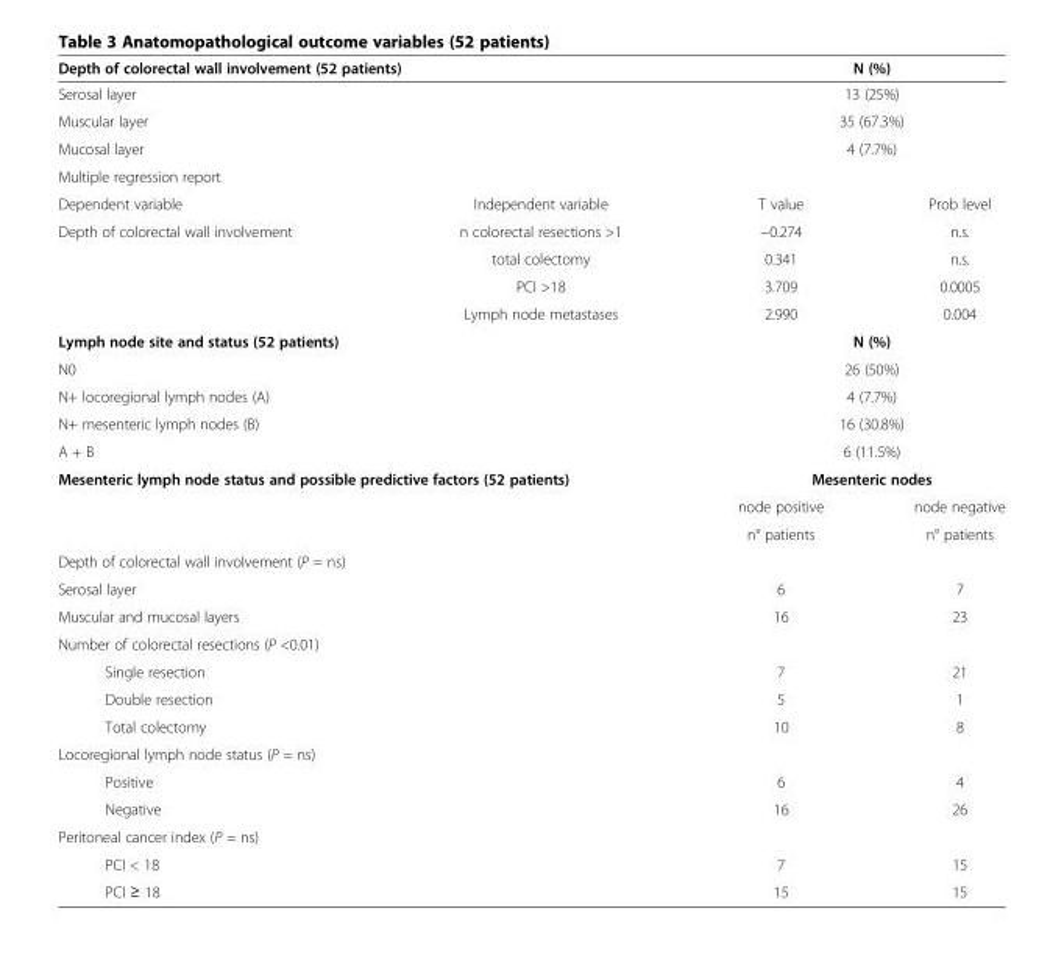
<table><thead><tr><td colspan="2">Depth of colorectal wall involvement (52 patients)</td><td colspan="2">N (%)</td></tr></thead><tbody><tr><td colspan="2">Serosal layer</td><td>13 (25%)</td><td></td></tr><tr><td colspan="2">Muscular layer</td><td>35 (67.3%)</td><td></td></tr><tr><td colspan="2">Mucosal layer</td><td>4 (7.7%)</td><td></td></tr><tr><td colspan="4">Multiple regression report</td></tr><tr><td>Dependent variable</td><td>Independent variable</td><td>T value</td><td>Prob level</td></tr><tr><td rowspan="4">Depth of colorectal wall involvement</td><td>n colorectal resections &gt;1</td><td>−0.274</td><td>n.s.</td></tr><tr><td>total colectomy</td><td>0.341</td><td>n.s.</td></tr><tr><td>PCI &gt;18</td><td>3.709</td><td>0.0005</td></tr><tr><td>Lymph node metastases</td><td>2.990</td><td>0.004</td></tr><tr><td colspan="2">Lymph node site and status (52 patients)</td><td colspan="2">N (%)</td></tr><tr><td colspan="2">N0</td><td colspan="2">26 (50%)</td></tr><tr><td colspan="2">N+ locoregional lymph nodes (A)</td><td colspan="2">4 (7.7%)</td></tr><tr><td colspan="2">N+ mesenteric lymph nodes (B)</td><td colspan="2">16 (30.8%)</td></tr><tr><td colspan="2">A + B</td><td colspan="2">6 (11.5%)</td></tr><tr><td colspan="2">Mesenteric lymph node status and possible predictive factors (52 patients)</td><td colspan="2">Mesenteric nodes</td></tr><tr><td></td><td></td><td>node positive</td><td>node negative</td></tr><tr><td></td><td></td><td>n° patients</td><td>n° patients</td></tr><tr><td colspan="4">Depth of colorectal wall involvement (P = ns)</td></tr><tr><td colspan="2">Serosal layer</td><td>6</td><td>7</td></tr><tr><td colspan="2">Muscular and mucosal layers</td><td>16</td><td>23</td></tr><tr><td colspan="4">Number of colorectal resections (P &lt;0.01)</td></tr><tr><td colspan="2">Single resection</td><td>7</td><td>21</td></tr><tr><td colspan="2">Double resection</td><td>5</td><td>1</td></tr><tr><td colspan="2">Total colectomy</td><td>10</td><td>8</td></tr><tr><td colspan="4">Locoregional lymph node status (P = ns)</td></tr><tr><td colspan="2">Positive</td><td>6</td><td>4</td></tr><tr><td colspan="2">Negative</td><td>16</td><td>26</td></tr><tr><td colspan="4">Peritoneal cancer index (P = ns)</td></tr><tr><td colspan="2">PCI &lt; 18</td><td>7</td><td>15</td></tr><tr><td colspan="2">PCI ≥ 18</td><td>15</td><td>15</td></tr></tbody></table>